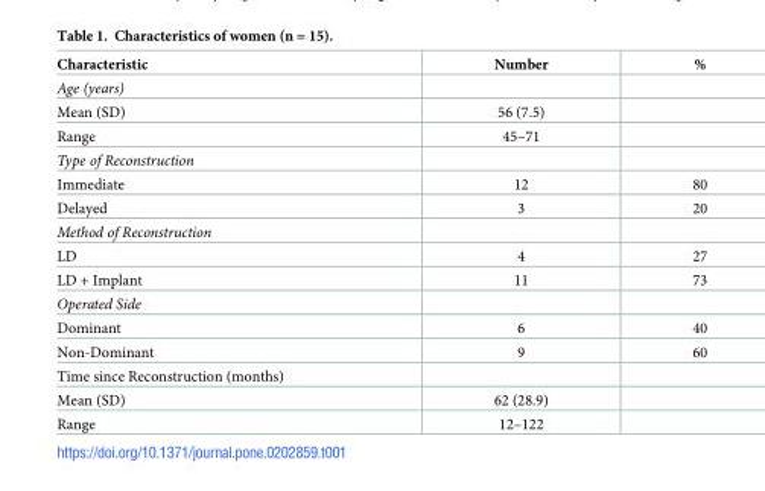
<table><thead><tr><td>Characteristic</td><td>Number</td><td>%</td></tr></thead><tbody><tr><td colspan="3">Age (years)</td></tr><tr><td>Mean (SD)</td><td>56 (7.5)</td><td></td></tr><tr><td>Range</td><td>45–71</td><td></td></tr><tr><td colspan="3">Type of Reconstruction</td></tr><tr><td>Immediate</td><td>12</td><td>80</td></tr><tr><td>Delayed</td><td>3</td><td>20</td></tr><tr><td colspan="3">Method of Reconstruction</td></tr><tr><td>LD</td><td>4</td><td>27</td></tr><tr><td>LD + Implant</td><td>11</td><td>73</td></tr><tr><td colspan="3">Operated Side</td></tr><tr><td>Dominant</td><td>6</td><td>40</td></tr><tr><td>Non-Dominant</td><td>9</td><td>60</td></tr><tr><td colspan="3">Time since Reconstruction (months)</td></tr><tr><td>Mean (SD)</td><td>62 (28.9)</td><td></td></tr><tr><td>Range</td><td>12–122</td><td></td></tr></tbody></table>